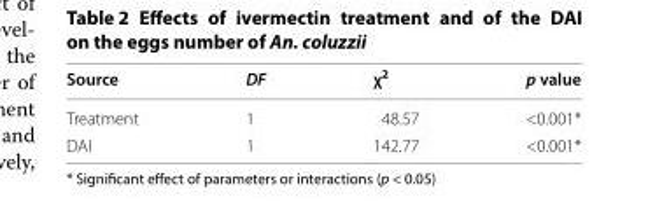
<table><thead><tr><td>Source</td><td>DF</td><td>χ<sup>2</sup></td><td>p value</td></tr></thead><tbody><tr><td>Treatment</td><td>1</td><td>48.57</td><td>&lt;0.001*</td></tr><tr><td>DAI</td><td>1</td><td>142.77</td><td>&lt;0.001*</td></tr></tbody></table>